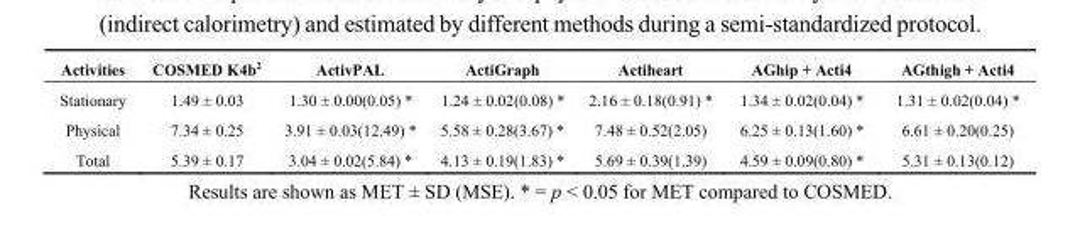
<table><thead><tr><td>Activities</td><td>COSMED K4b<sup>2</sup></td><td>ActivPAL</td><td>ActiGraph</td><td>Actiheart</td><td>AGhip + Acti4</td><td>AGthigh + Acti4</td></tr></thead><tbody><tr><td>Stationary</td><td>1.49 ± 0.03</td><td>1.30 ± 0.00(0.05) *</td><td>1.24 ± 0.02(0.08) *</td><td>2.16 ± 0.18(0.91) *</td><td>1.34 ± 0.02(0.04) *</td><td>1.31 ± 0.02(0.04) *</td></tr><tr><td>Physical</td><td>7.34 ± 0.25</td><td>3.91 ± 0.03(12.49) *</td><td>5.58 ± 0.28(3.67) *</td><td>7.48 ± 0.52(2.05)</td><td>6.25 ± 0.13(1.60) *</td><td>6.61 ± 0.20(0.25)</td></tr><tr><td>Total</td><td>5.39 ± 0.17</td><td>3.04 ± 0.02(5.84) *</td><td>4.13 ± 0.19(1.83) *</td><td>5.69 ± 0.39(1.39)</td><td>4.59 ± 0.09(0.80) *</td><td>5.31 ± 0.13(0.12)</td></tr></tbody></table>